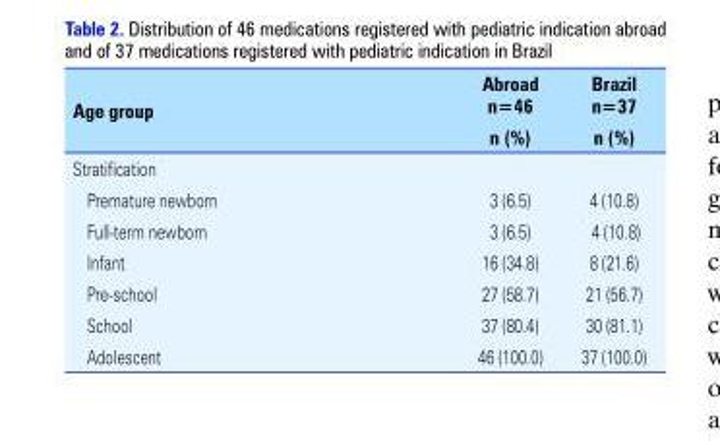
<table><thead><tr><td rowspan="2">Age group</td><td rowspan="2">Abroad n=46 n (%)</td><td rowspan="2">Brazil n=37 n (%)</td></tr><tr></tr></thead><tbody><tr><td colspan="3">Stratification</td></tr><tr><td>Premature newborn</td><td>3 (6.5)</td><td>4 (10.8)</td></tr><tr><td>Full-term newborn</td><td>3 (6.5)</td><td>4 (10.8)</td></tr><tr><td>Infant</td><td>16 (34.8)</td><td>8 (21.6)</td></tr><tr><td>Pre-school</td><td>27 (58.7)</td><td>21 (56.7)</td></tr><tr><td>School</td><td>37 (80.4)</td><td>30 (81.1)</td></tr><tr><td>Adolescent</td><td>46 (100.0)</td><td>37 (100.0)</td></tr></tbody></table>